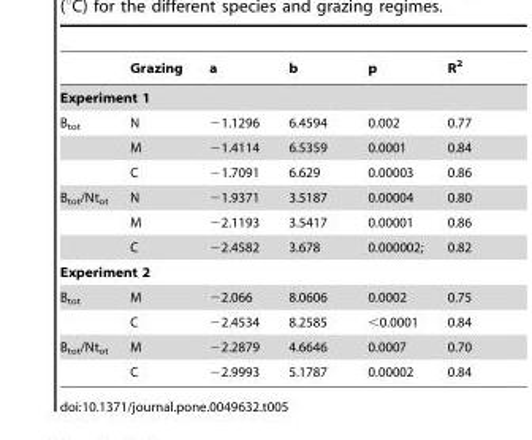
<table><thead><tr><td></td><td>Grazing</td><td>a</td><td>b</td><td>p</td><td>R<sup>2</sup></td></tr></thead><tbody><tr><td colspan="6">Experiment 1</td></tr><tr><td rowspan="3">B<sub>tot</sub></td><td>N</td><td>−1.1296</td><td>6.4594</td><td>0.002</td><td>0.77</td></tr><tr><td>M</td><td>−1.4114</td><td>6.5359</td><td>0.0001</td><td>0.84</td></tr><tr><td>C</td><td>−1.7091</td><td>6.629</td><td>0.00003</td><td>0.86</td></tr><tr><td rowspan="3">B<sub>tot</sub>/Nt<sub>ot</sub></td><td>N</td><td>−1.9371</td><td>3.5187</td><td>0.00004</td><td>0.80</td></tr><tr><td>M</td><td>−2.1193</td><td>3.5417</td><td>0.00001</td><td>0.86</td></tr><tr><td>C</td><td>−2.4582</td><td>3.678</td><td>0.000002;</td><td>0.82</td></tr><tr><td colspan="6">Experiment 2</td></tr><tr><td rowspan="2">B<sub>tot</sub></td><td>M</td><td>−2.066</td><td>8.0606</td><td>0.0002</td><td>0.75</td></tr><tr><td>C</td><td>−2.4534</td><td>8.2585</td><td>&lt;0.0001</td><td>0.84</td></tr><tr><td rowspan="2">B<sub>tot</sub>/Nt<sub>ot</sub></td><td>M</td><td>−2.2879</td><td>4.6646</td><td>0.0007</td><td>0.70</td></tr><tr><td>C</td><td>−2.9993</td><td>5.1787</td><td>0.00002</td><td>0.84</td></tr></tbody></table>